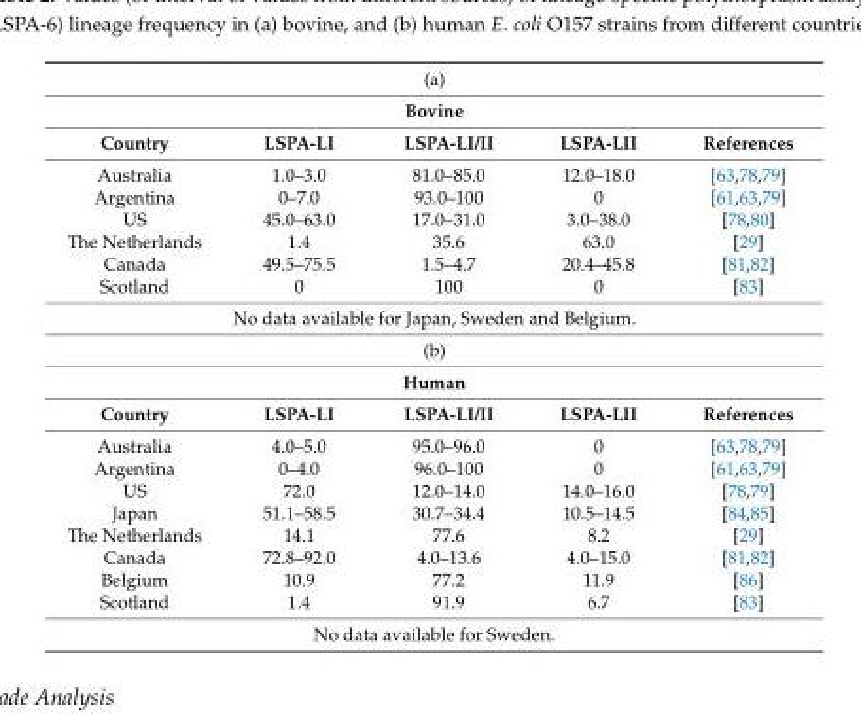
<table><tbody><tr><td colspan="5">(a)</td></tr><tr><td colspan="5">Bovine</td></tr><tr><td>Country</td><td>LSPA-LI</td><td>LSPA-LI/II</td><td>LSPA-LII</td><td>References</td></tr><tr><td>Australia</td><td>1.0–3.0</td><td>81.0–85.0</td><td>12.0–18.0</td><td>[63,78,79]</td></tr><tr><td>Argentina</td><td>0–7.0</td><td>93.0–100</td><td>0</td><td>[61,63,79]</td></tr><tr><td>US</td><td>45.0–63.0</td><td>17.0–31.0</td><td>3.0–38.0</td><td>[78,80]</td></tr><tr><td>The Netherlands</td><td>1.4</td><td>35.6</td><td>63.0</td><td>[29]</td></tr><tr><td>Canada</td><td>49.5–75.5</td><td>1.5–4.7</td><td>20.4–45.8</td><td>[81,82]</td></tr><tr><td>Scotland</td><td>0</td><td>100</td><td>0</td><td>[83]</td></tr><tr><td colspan="5">No data available for Japan, Sweden and Belgium.</td></tr><tr><td colspan="5">(b)</td></tr><tr><td colspan="5">Human</td></tr><tr><td>Country</td><td>LSPA-LI</td><td>LSPA-LI/II</td><td>LSPA-LII</td><td>References</td></tr><tr><td>Australia</td><td>4.0–5.0</td><td>95.0–96.0</td><td>0</td><td>[63,78,79]</td></tr><tr><td>Argentina</td><td>0–4.0</td><td>96.0–100</td><td>0</td><td>[61,63,79]</td></tr><tr><td>US</td><td>72.0</td><td>12.0–14.0</td><td>14.0–16.0</td><td>[78,79]</td></tr><tr><td>Japan</td><td>51.1–58.5</td><td>30.7–34.4</td><td>10.5–14.5</td><td>[84,85]</td></tr><tr><td>The Netherlands</td><td>14.1</td><td>77.6</td><td>8.2</td><td>[29]</td></tr><tr><td>Canada</td><td>72.8–92.0</td><td>4.0–13.6</td><td>4.0–15.0</td><td>[81,82]</td></tr><tr><td>Belgium</td><td>10.9</td><td>77.2</td><td>11.9</td><td>[86]</td></tr><tr><td>Scotland</td><td>1.4</td><td>91.9</td><td>6.7</td><td>[83]</td></tr><tr><td colspan="5">No data available for Sweden.</td></tr></tbody></table>